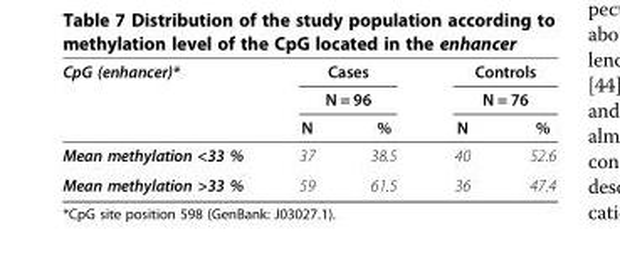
<table><thead><tr><td rowspan="3">CpG (enhancer)*</td><td rowspan="2" colspan="2">Cases N = 96</td><td rowspan="2" colspan="2">Controls N = 76</td></tr><tr></tr><tr><td>N</td><td>%</td><td>N</td><td>%</td></tr></thead><tbody><tr><td>Mean methylation &lt;33 %</td><td>37</td><td>38.5</td><td>40</td><td>52.6</td></tr><tr><td>Mean methylation &gt;33 %</td><td>59</td><td>61.5</td><td>36</td><td>47.4</td></tr></tbody></table>